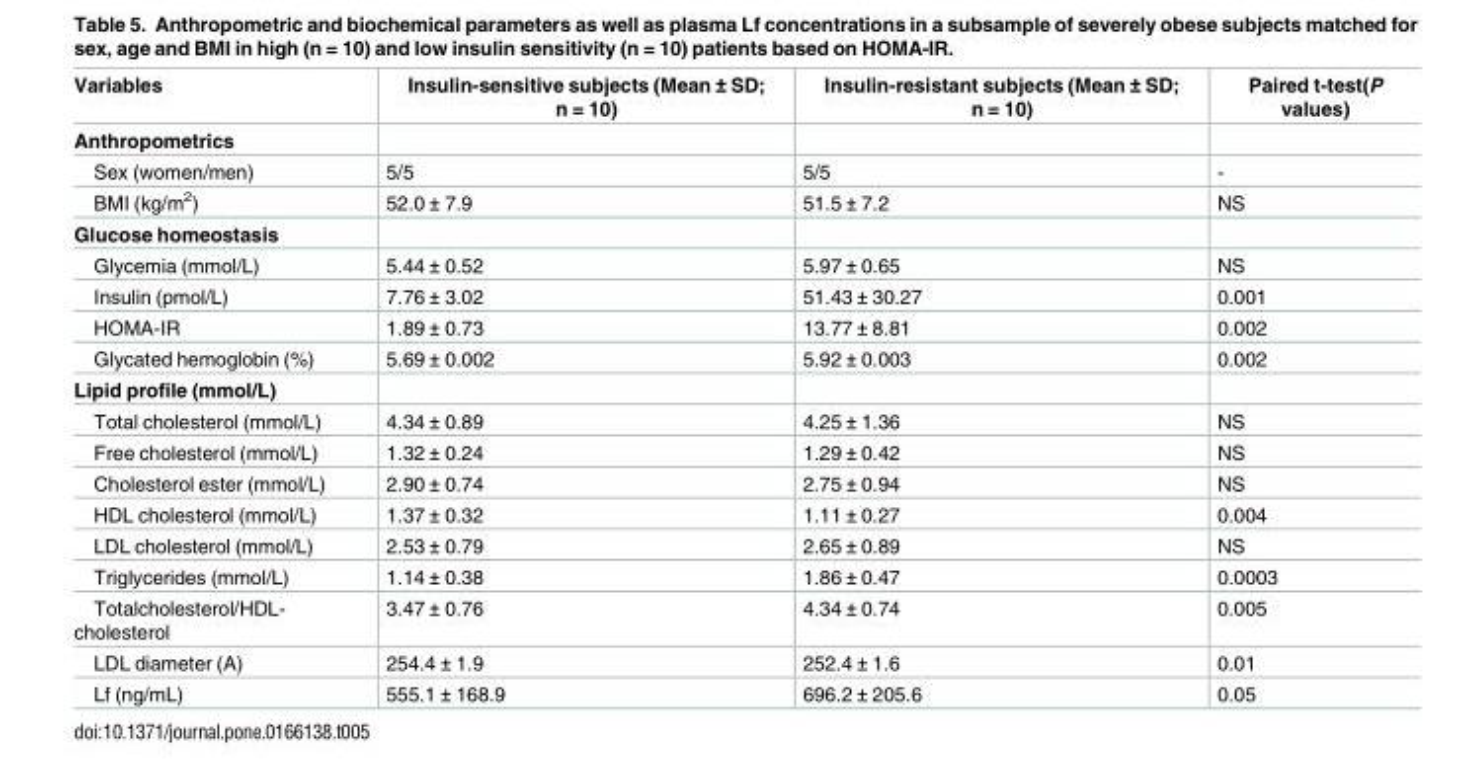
<table><thead><tr><td>Variables</td><td>Insulin-sensitive subjects (Mean ± SD; n = 10)</td><td>Insulin-resistant subjects (Mean ± SD; n = 10)</td><td>Paired t-test(P values)</td></tr></thead><tbody><tr><td colspan="4">Anthropometrics</td></tr><tr><td>Sex (women/men)</td><td>5/5</td><td>5/5</td><td>-</td></tr><tr><td>BMI (kg/m<sup>2</sup>)</td><td>52.0 ± 7.9</td><td>51.5 ± 7.2</td><td>NS</td></tr><tr><td colspan="4">Glucose homeostasis</td></tr><tr><td>Glycemia (mmol/L)</td><td>5.44 ± 0.52</td><td>5.97 ± 0.65</td><td>NS</td></tr><tr><td>Insulin (pmol/L)</td><td>7.76 ± 3.02</td><td>51.43 ± 30.27</td><td>0.001</td></tr><tr><td>HOMA-IR</td><td>1.89 ± 0.73</td><td>13.77 ± 8.81</td><td>0.002</td></tr><tr><td>Glycated hemoglobin (%)</td><td>5.69 ± 0.002</td><td>5.92 ± 0.003</td><td>0.002</td></tr><tr><td colspan="4">Lipid profile (mmol/L)</td></tr><tr><td>Total cholesterol (mmol/L)</td><td>4.34 ± 0.89</td><td>4.25 ± 1.36</td><td>NS</td></tr><tr><td>Free cholesterol (mmol/L)</td><td>1.32 ± 0.24</td><td>1.29 ± 0.42</td><td>NS</td></tr><tr><td>Cholesterol ester (mmol/L)</td><td>2.90 ± 0.74</td><td>2.75 ± 0.94</td><td>NS</td></tr><tr><td>HDL cholesterol (mmol/L)</td><td>1.37 ± 0.32</td><td>1.11 ± 0.27</td><td>0.004</td></tr><tr><td>LDL cholesterol (mmol/L)</td><td>2.53 ± 0.79</td><td>2.65 ± 0.89</td><td>NS</td></tr><tr><td>Triglycerides (mmol/L)</td><td>1.14 ± 0.38</td><td>1.86 ± 0.47</td><td>0.0003</td></tr><tr><td>Totalcholesterol/HDL- cholesterol</td><td>3.47 ± 0.76</td><td>4.34 ± 0.74</td><td>0.005</td></tr><tr><td>LDL diameter (A)</td><td>254.4 ± 1.9</td><td>252.4 ± 1.6</td><td>0.01</td></tr><tr><td>Lf (ng/mL)</td><td>555.1 ± 168.9</td><td>696.2 ± 205.6</td><td>0.05</td></tr></tbody></table>